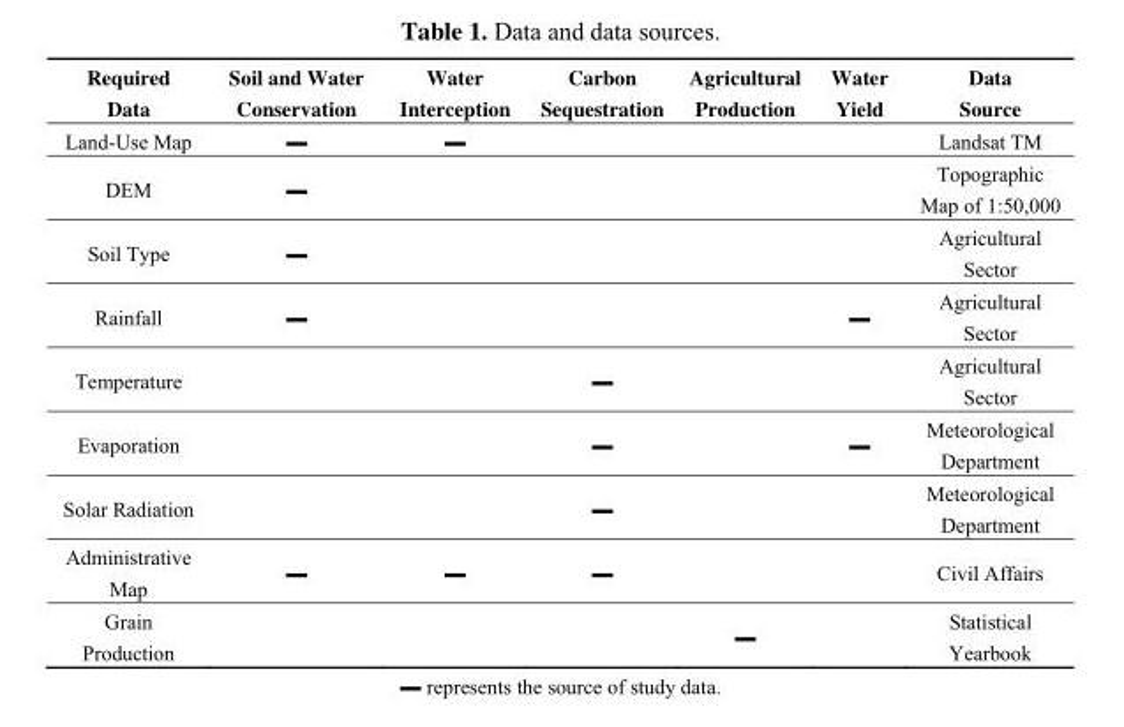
<table><thead><tr><td>Required Data</td><td>Soil and Water Conservation</td><td>Water Interception</td><td>Carbon Sequestration</td><td>Agricultural Production</td><td>Water Yield</td><td>Data Source</td></tr></thead><tbody><tr><td>Land-Use Map</td><td>▬</td><td>▬</td><td></td><td></td><td></td><td>Landsat TM</td></tr><tr><td>DEM</td><td>▬</td><td></td><td></td><td></td><td></td><td>Topographic Map of 1:50,000</td></tr><tr><td>Soil Type</td><td>▬</td><td></td><td></td><td></td><td></td><td>Agricultural Sector</td></tr><tr><td>Rainfall</td><td>▬</td><td></td><td></td><td></td><td>▬</td><td>Agricultural Sector</td></tr><tr><td>Temperature</td><td></td><td></td><td>▬</td><td></td><td></td><td>Agricultural Sector</td></tr><tr><td>Evaporation</td><td></td><td></td><td>▬</td><td></td><td>▬</td><td>Meteorological Department</td></tr><tr><td>Solar Radiation</td><td></td><td></td><td>▬</td><td></td><td></td><td>Meteorological Department</td></tr><tr><td>Administrative Map</td><td>▬</td><td>▬</td><td>▬</td><td></td><td></td><td>Civil Affairs</td></tr><tr><td>Grain Production</td><td></td><td></td><td></td><td>▬</td><td></td><td>Statistical Yearbook</td></tr></tbody></table>